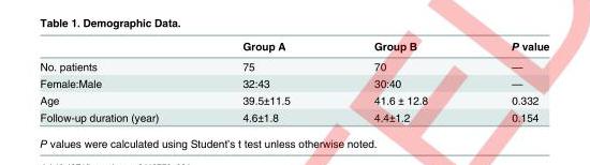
<table><thead><tr><td></td><td>Group A</td><td>Group B</td><td>P value</td></tr></thead><tbody><tr><td>No. patients</td><td>75</td><td>70</td><td>—</td></tr><tr><td>Female:Male</td><td>32:43</td><td>30:40</td><td>—</td></tr><tr><td>Age</td><td>39.5±11.5</td><td>41.6 ± 12.8</td><td>0.332</td></tr><tr><td>Follow-up duration (year)</td><td>4.6±1.8</td><td>4.4±1.2</td><td>0.154</td></tr></tbody></table>